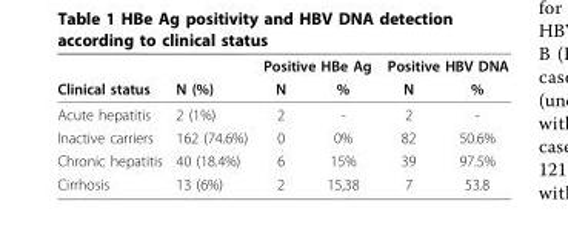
<table><thead><tr><td rowspan="2">Clinical status</td><td rowspan="2">N (%)</td><td colspan="2">Positive HBe Ag</td><td colspan="2">Positive HBV DNA</td></tr><tr><td>N</td><td>%</td><td>N</td><td>%</td></tr></thead><tbody><tr><td>Acute hepatitis</td><td>2 (1%)</td><td>2</td><td>-</td><td>2</td><td>-</td></tr><tr><td>Inactive carriers</td><td>162 (74.6%)</td><td>0</td><td>0%</td><td>82</td><td>50.6%</td></tr><tr><td>Chronic hepatitis</td><td>40 (18.4%)</td><td>6</td><td>15%</td><td>39</td><td>97.5%</td></tr><tr><td>Cirrhosis</td><td>13 (6%)</td><td>2</td><td>15,38</td><td>7</td><td>53.8</td></tr></tbody></table>